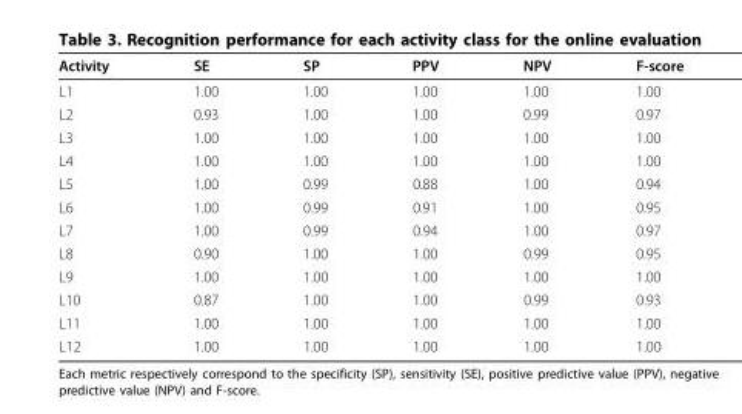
<table><thead><tr><td>Activity</td><td>SE</td><td>SP</td><td>PPV</td><td>NPV</td><td>F-score</td></tr></thead><tbody><tr><td>L1</td><td>1.00</td><td>1.00</td><td>1.00</td><td>1.00</td><td>1.00</td></tr><tr><td>L2</td><td>0.93</td><td>1.00</td><td>1.00</td><td>0.99</td><td>0.97</td></tr><tr><td>L3</td><td>1.00</td><td>1.00</td><td>1.00</td><td>1.00</td><td>1.00</td></tr><tr><td>L4</td><td>1.00</td><td>1.00</td><td>1.00</td><td>1.00</td><td>1.00</td></tr><tr><td>L5</td><td>1.00</td><td>0.99</td><td>0.88</td><td>1.00</td><td>0.94</td></tr><tr><td>L6</td><td>1.00</td><td>0.99</td><td>0.91</td><td>1.00</td><td>0.95</td></tr><tr><td>L7</td><td>1.00</td><td>0.99</td><td>0.94</td><td>1.00</td><td>0.97</td></tr><tr><td>L8</td><td>0.90</td><td>1.00</td><td>1.00</td><td>0.99</td><td>0.95</td></tr><tr><td>L9</td><td>1.00</td><td>1.00</td><td>1.00</td><td>1.00</td><td>1.00</td></tr><tr><td>L10</td><td>0.87</td><td>1.00</td><td>1.00</td><td>0.99</td><td>0.93</td></tr><tr><td>L11</td><td>1.00</td><td>1.00</td><td>1.00</td><td>1.00</td><td>1.00</td></tr><tr><td>L12</td><td>1.00</td><td>1.00</td><td>1.00</td><td>1.00</td><td>1.00</td></tr></tbody></table>